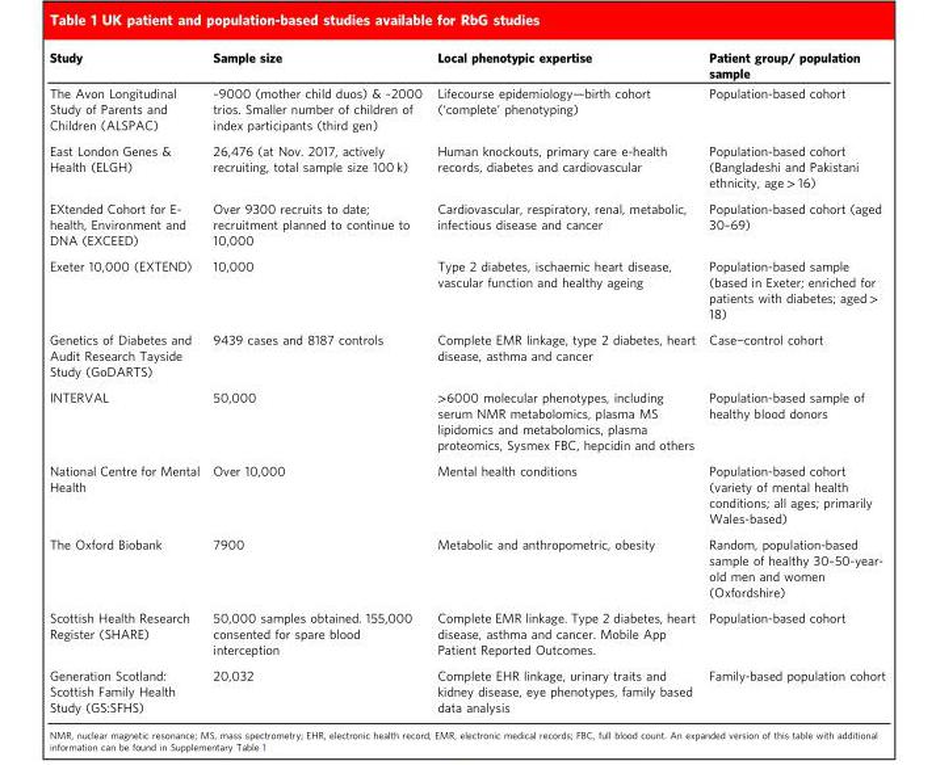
<table><thead><tr><td>Study</td><td>Sample size</td><td>Local phenotypic expertise</td><td>Patient group/ population sample</td></tr></thead><tbody><tr><td>The Avon Longitudinal Study of Parents and Children (ALSPAC)</td><td>~9000 (mother child duos) &amp; ~2000 trios. Smaller number of children of index participants (third gen)</td><td>Lifecourse epidemiology—birth cohort (‘complete’ phenotyping)</td><td>Population-based cohort</td></tr><tr><td>East London Genes &amp; Health (ELGH)</td><td>26,476 (at Nov. 2017, actively recruiting, total sample size 100 k)</td><td>Human knockouts, primary care e-health records, diabetes and cardiovascular</td><td>Population-based cohort (Bangladeshi and Pakistani ethnicity, age &gt; 16)</td></tr><tr><td>EXtended Cohort for E- health, Environment and DNA (EXCEED)</td><td>Over 9300 recruits to date; recruitment planned to continue to 10,000</td><td>Cardiovascular, respiratory, renal, metabolic, infectious disease and cancer</td><td>Population-based cohort (aged 30–69)</td></tr><tr><td>Exeter 10,000 (EXTEND)</td><td>10,000</td><td>Type 2 diabetes, ischaemic heart disease, vascular function and healthy ageing</td><td>Population-based sample (based in Exeter; enriched for patients with diabetes; aged &gt; 18)</td></tr><tr><td>Genetics of Diabetes and Audit Research Tayside Study (GoDARTS)</td><td>9439 cases and 8187 controls</td><td>Complete EMR linkage, type 2 diabetes, heart disease, asthma and cancer</td><td>Case−control cohort</td></tr><tr><td>INTERVAL</td><td>50,000</td><td>&gt;6000 molecular phenotypes, including serum NMR metabolomics, plasma MS lipidomics and metabolomics, plasma proteomics, Sysmex FBC, hepcidin and others</td><td>Population-based sample of healthy blood donors</td></tr><tr><td>National Centre for Mental Health</td><td>Over 10,000</td><td>Mental health conditions</td><td>Population-based cohort (variety of mental health conditions; all ages; primarily Wales-based)</td></tr><tr><td>The Oxford Biobank</td><td>7900</td><td>Metabolic and anthropometric, obesity</td><td>Random, population-based sample of healthy 30–50-year- old men and women (Oxfordshire)</td></tr><tr><td>Scottish Health Research Register (SHARE)</td><td>50,000 samples obtained. 155,000 consented for spare blood interception</td><td>Complete EMR linkage. Type 2 diabetes, heart disease, asthma and cancer. Mobile App Patient Reported Outcomes.</td><td>Population-based cohort</td></tr><tr><td>Generation Scotland: Scottish Family Health Study (GS:SFHS)</td><td>20,032</td><td>Complete EHR linkage, urinary traits and kidney disease, eye phenotypes, family based data analysis</td><td>Family-based population cohort</td></tr></tbody></table>